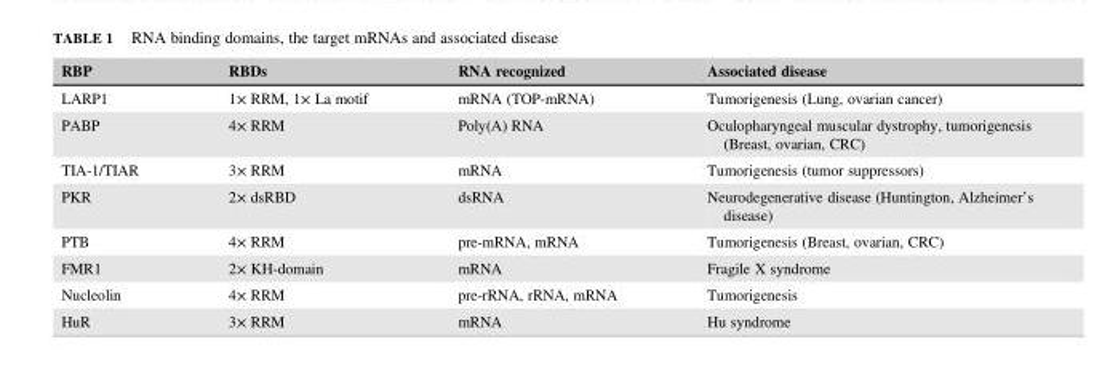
<table><thead><tr><td>RBP</td><td>RBDs</td><td>RNA recognized</td><td>Associated disease</td></tr></thead><tbody><tr><td>LARP1</td><td>1× RRM, 1× La motif</td><td>mRNA (TOP-mRNA)</td><td>Tumorigenesis (Lung, ovarian cancer)</td></tr><tr><td>PABP</td><td>4× RRM</td><td>Poly(A) RNA</td><td>Oculopharyngeal muscular dystrophy, tumorigenesis (Breast, ovarian, CRC)</td></tr><tr><td>TIA-1/TIAR</td><td>3× RRM</td><td>mRNA</td><td>Tumorigenesis (tumor suppressors)</td></tr><tr><td>PKR</td><td>2× dsRBD</td><td>dsRNA</td><td>Neurodegenerative disease (Huntington, Alzheimer’s disease)</td></tr><tr><td>PTB</td><td>4× RRM</td><td>pre-mRNA, mRNA</td><td>Tumorigenesis (Breast, ovarian, CRC)</td></tr><tr><td>FMR1</td><td>2× KH-domain</td><td>mRNA</td><td>Fragile X syndrome</td></tr><tr><td>Nucleolin</td><td>4× RRM</td><td>pre-rRNA, rRNA, mRNA</td><td>Tumorigenesis</td></tr><tr><td>HuR</td><td>3× RRM</td><td>mRNA</td><td>Hu syndrome</td></tr></tbody></table>